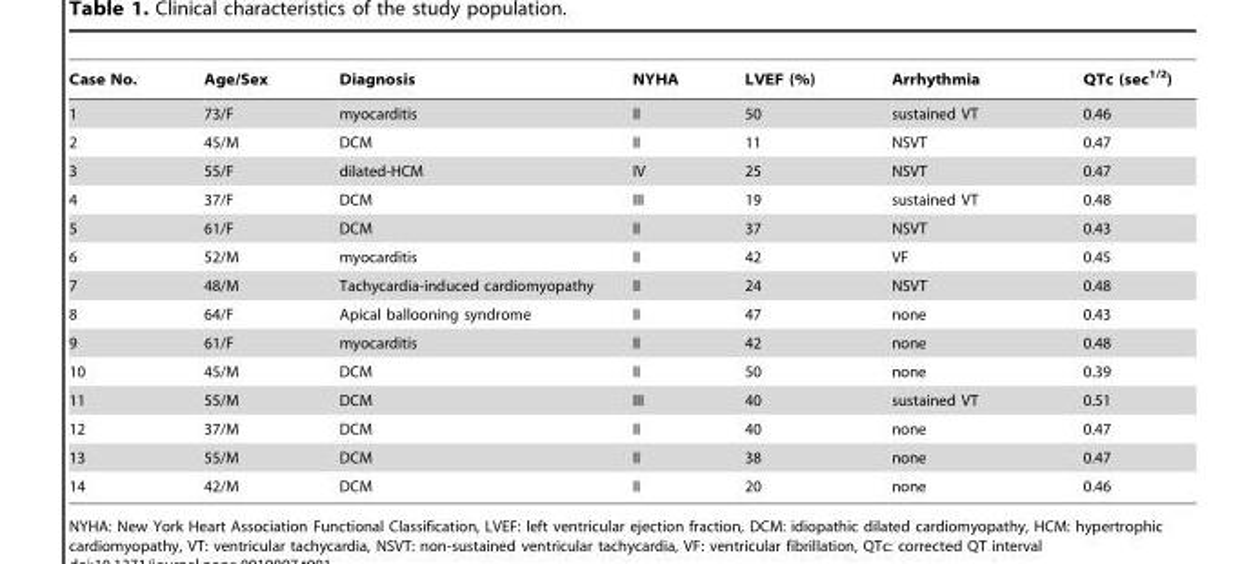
<table><thead><tr><td>Case No.</td><td>Age/Sex</td><td>Diagnosis</td><td>NYHA</td><td>LVEF (%)</td><td>Arrhythmia</td><td>QTc (sec<sup>1/2</sup>)</td></tr></thead><tbody><tr><td>1</td><td>73/F</td><td>myocarditis</td><td>II</td><td>50</td><td>sustained VT</td><td>0.46</td></tr><tr><td>2</td><td>45/M</td><td>DCM</td><td>II</td><td>11</td><td>NSVT</td><td>0.47</td></tr><tr><td>3</td><td>55/F</td><td>dilated-HCM</td><td>IV</td><td>25</td><td>NSVT</td><td>0.47</td></tr><tr><td>4</td><td>37/F</td><td>DCM</td><td>III</td><td>19</td><td>sustained VT</td><td>0.48</td></tr><tr><td>5</td><td>61/F</td><td>DCM</td><td>II</td><td>37</td><td>NSVT</td><td>0.43</td></tr><tr><td>6</td><td>52/M</td><td>myocarditis</td><td>II</td><td>42</td><td>VF</td><td>0.45</td></tr><tr><td>7</td><td>48/M</td><td>Tachycardia-induced cardiomyopathy</td><td>II</td><td>24</td><td>NSVT</td><td>0.48</td></tr><tr><td>8</td><td>64/F</td><td>Apical ballooning syndrome</td><td>II</td><td>47</td><td>none</td><td>0.43</td></tr><tr><td>9</td><td>61/F</td><td>myocarditis</td><td>II</td><td>42</td><td>none</td><td>0.48</td></tr><tr><td>10</td><td>45/M</td><td>DCM</td><td>II</td><td>50</td><td>none</td><td>0.39</td></tr><tr><td>11</td><td>55/M</td><td>DCM</td><td>III</td><td>40</td><td>sustained VT</td><td>0.51</td></tr><tr><td>12</td><td>37/M</td><td>DCM</td><td>II</td><td>40</td><td>none</td><td>0.47</td></tr><tr><td>13</td><td>55/M</td><td>DCM</td><td>II</td><td>38</td><td>none</td><td>0.47</td></tr><tr><td>14</td><td>42/M</td><td>DCM</td><td>II</td><td>20</td><td>none</td><td>0.46</td></tr></tbody></table>